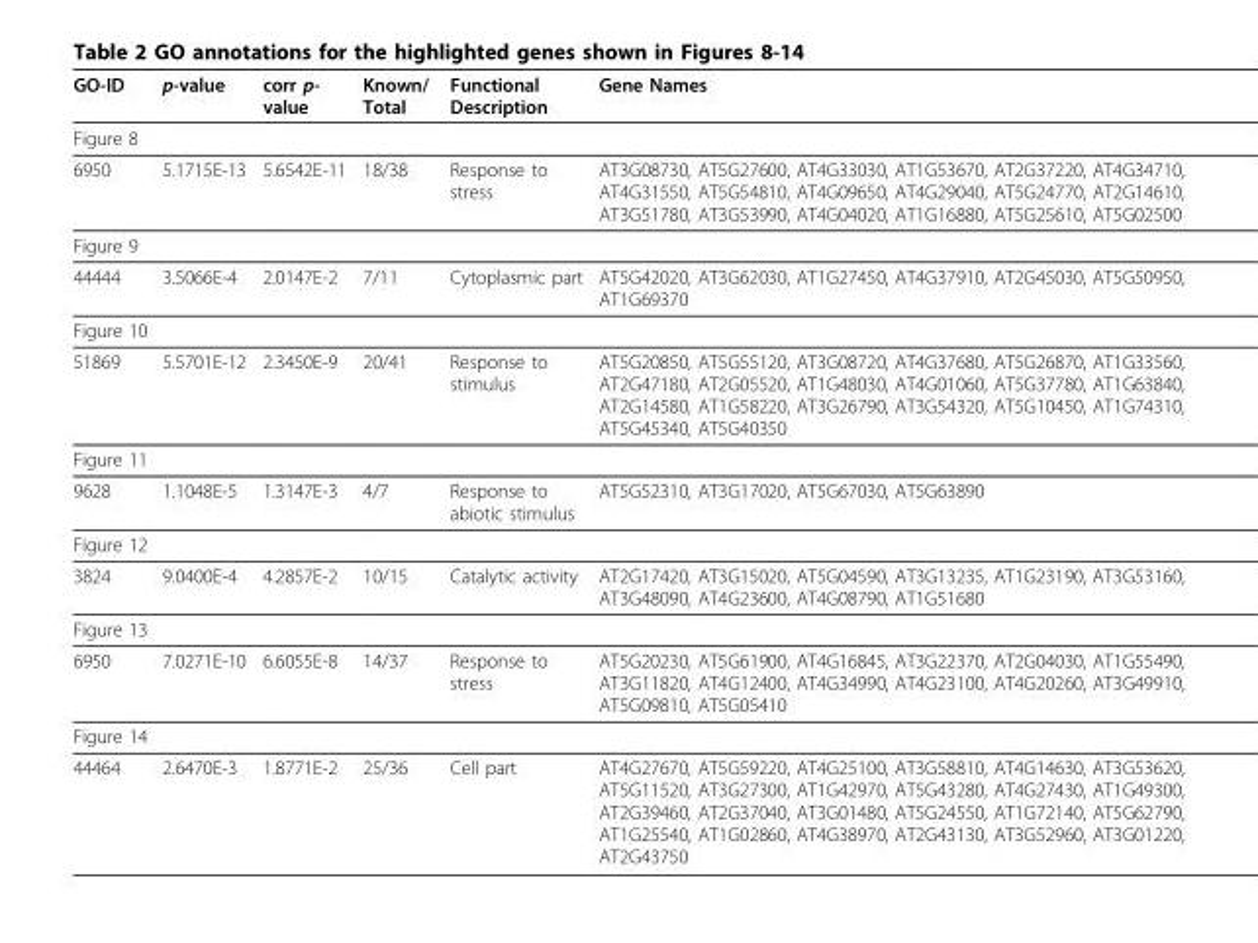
<table><thead><tr><td>GO-ID</td><td>p-value</td><td>corr p- value</td><td>Known/ Total</td><td>Functional Description</td><td>Gene Names</td></tr></thead><tbody><tr><td colspan="6">Figure 8</td></tr><tr><td>6950</td><td>5.1715E-13</td><td>5.6542E-11</td><td>18/38</td><td>Response to stress</td><td>AT3G08730, AT5G27600, AT4G33030, AT1G53670, AT2G37220, AT4G34710, AT4G31550, AT5G54810, AT4G09650, AT4G29040, AT5G24770, AT2G14610, AT3G51780, AT3G53990, AT4G04020, AT1G16880, AT5G25610, AT5G02500</td></tr><tr><td colspan="6">Figure 9</td></tr><tr><td>44444</td><td>3.5066E-4</td><td>2.0147E-2</td><td>7/11</td><td>Cytoplasmic part</td><td>AT5G42020, AT3G62030, AT1G27450, AT4G37910, AT2G45030, AT5G50950, AT1G69370</td></tr><tr><td colspan="6">Figure 10</td></tr><tr><td>51869</td><td>5.5701E-12</td><td>2.3450E-9</td><td>20/41</td><td>Response to stimulus</td><td>AT5G20850, AT5G55120, AT3G08720, AT4G37680, AT5G26870, AT1G33560, AT2G47180, AT2G05520, AT1G48030, AT4G01060, AT5G37780, AT1G63840, AT2G14580, AT1G58220, AT3G26790, AT3G54320, AT5G10450, AT1G74310, AT5G45340, AT5G40350</td></tr><tr><td colspan="6">Figure 11</td></tr><tr><td>9628</td><td>1.1048E-5</td><td>1.3147E-3</td><td>4/7</td><td>Response to abiotic stimulus</td><td>AT5G52310, AT3G17020, AT5G67030, AT5G63890</td></tr><tr><td colspan="6">Figure 12</td></tr><tr><td>3824</td><td>9.0400E-4</td><td>4.2857E-2</td><td>10/15</td><td>Catalytic activity</td><td>AT2G17420, AT3G15020, AT5G04590, AT3G13235, AT1G23190, AT3G53160, AT3G48090, AT4G23600, AT4G08790, AT1G51680</td></tr><tr><td colspan="6">Figure 13</td></tr><tr><td>6950</td><td>7.0271E-10</td><td>6.6055E-8</td><td>14/37</td><td>Response to stress</td><td>AT5G20230, AT5G61900, AT4G16845, AT3G22370, AT2G04030, AT1G55490, AT3G11820, AT4G12400, AT4G34990, AT4G23100, AT4G20260, AT3G49910, AT5G09810, AT5G05410</td></tr><tr><td colspan="6">Figure 14</td></tr><tr><td>44464</td><td>2.6470E-3</td><td>1.8771E-2</td><td>25/36</td><td>Cell part</td><td>AT4G27670, AT5G59220, AT4G25100, AT3G58810, AT4G14630, AT3G53620, AT5G11520, AT3G27300, AT1G42970, AT5G43280, AT4G27430, AT1G49300, AT2G39460, AT2G37040, AT3G01480, AT5G24550, AT1G72140, AT5G62790, AT1G25540, AT1G02860, AT4G38970, AT2G43130, AT3G52960, AT3G01220, AT2G43750</td></tr></tbody></table>